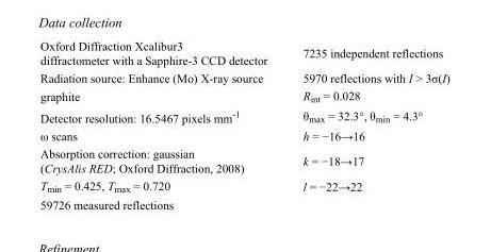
<table><tbody><tr><td>Oxford Diffraction Xcalibur3 diffractometer with a Sapphire-3 CCD detector</td><td>7235 independent reflections</td></tr><tr><td>Radiation source: Enhance (Mo) X-ray source</td><td>5970 reflections with I &gt; 3σ(I)</td></tr><tr><td>graphite</td><td>R<sub>int</sub> = 0.028</td></tr><tr><td>Detector resolution: 16.5467 pixels mm<sup>-1</sup></td><td>θ<sub>max</sub> = 32.3°, θ<sub>min</sub> = 4.3°</td></tr><tr><td>ω scans</td><td>h = −16→16</td></tr><tr><td>Absorption correction: gaussian (CrysAlis RED; Oxford Diffraction, 2008)</td><td>k = −18→17</td></tr><tr><td>T<sub>min</sub> = 0.425, T<sub>max</sub> = 0.720</td><td>l = −22→22</td></tr><tr><td>59726 measured reflections</td><td></td></tr></tbody></table>